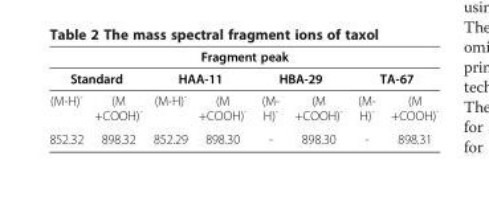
<table><thead><tr><td colspan="8">Fragment peak</td></tr><tr><td colspan="2">Standard</td><td colspan="2">HAA-11</td><td colspan="2">HBA-29</td><td colspan="2">TA-67</td></tr><tr><td>(M-H)<sup>-</sup></td><td>(M +COOH)<sup>-</sup></td><td>(M-H)<sup>-</sup></td><td>(M +COOH)<sup>-</sup></td><td>(M- H)<sup>-</sup></td><td>(M +COOH)<sup>-</sup></td><td>(M- H)<sup>-</sup></td><td>(M +COOH)<sup>-</sup></td></tr></thead><tbody><tr><td>852.32</td><td>898.32</td><td>852.29</td><td>898.30</td><td>-</td><td>898.30</td><td>-</td><td>898.31</td></tr></tbody></table>